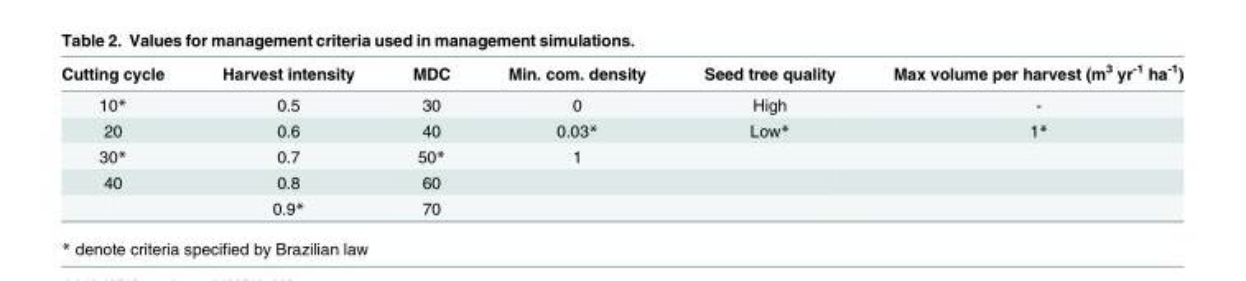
<table><thead><tr><td>Cutting cycle</td><td>Harvest intensity</td><td>MDC</td><td>Min. com. density</td><td>Seed tree quality</td><td>Max volume per harvest (m<sup>3</sup> yr<sup>-1</sup> ha<sup>-1</sup>)</td></tr></thead><tbody><tr><td>10*</td><td>0.5</td><td>30</td><td>0</td><td>High</td><td>-</td></tr><tr><td>20</td><td>0.6</td><td>40</td><td>0.03*</td><td>Low*</td><td>1*</td></tr><tr><td>30*</td><td>0.7</td><td>50*</td><td>1</td><td></td><td></td></tr><tr><td rowspan="2">40</td><td>0.8</td><td>60</td><td></td><td></td><td></td></tr><tr><td>0.9*</td><td>70</td><td></td><td></td><td></td></tr></tbody></table>